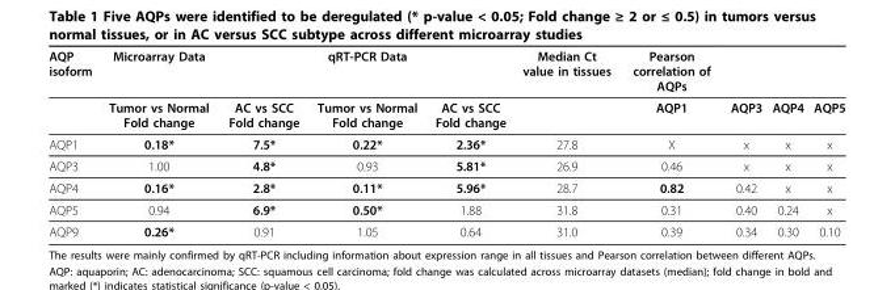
<table><thead><tr><td>AQP isoform</td><td>Microarray Data</td><td></td><td>qRT-PCR Data</td><td></td><td>Median Ct value in tissues</td><td>Pearson correlation of AQPs</td><td></td><td></td><td></td></tr></thead><tbody><tr><td></td><td>Tumor vs Normal Fold change</td><td>AC vs SCC Fold change</td><td>Tumor vs Normal Fold change</td><td>AC vs SCC Fold change</td><td></td><td>AQP1</td><td>AQP3</td><td>AQP4</td><td>AQP5</td></tr><tr><td>AQP1</td><td>0.18*</td><td>7.5*</td><td>0.22*</td><td>2.36*</td><td>27.8</td><td>X</td><td>x</td><td>x</td><td>x</td></tr><tr><td>AQP3</td><td>1.00</td><td>4.8*</td><td>0.93</td><td>5.81*</td><td>26.9</td><td>0.46</td><td>x</td><td>x</td><td>x</td></tr><tr><td>AQP4</td><td>0.16*</td><td>2.8*</td><td>0.11*</td><td>5.96*</td><td>28.7</td><td>0.82</td><td>0.42</td><td>x</td><td>x</td></tr><tr><td>AQP5</td><td>0.94</td><td>6.9*</td><td>0.50*</td><td>1.88</td><td>31.8</td><td>0.31</td><td>0.40</td><td>0.24</td><td>x</td></tr><tr><td>AQP9</td><td>0.26*</td><td>0.91</td><td>1.05</td><td>0.64</td><td>31.0</td><td>0.39</td><td>0.34</td><td>0.30</td><td>0.10</td></tr></tbody></table>